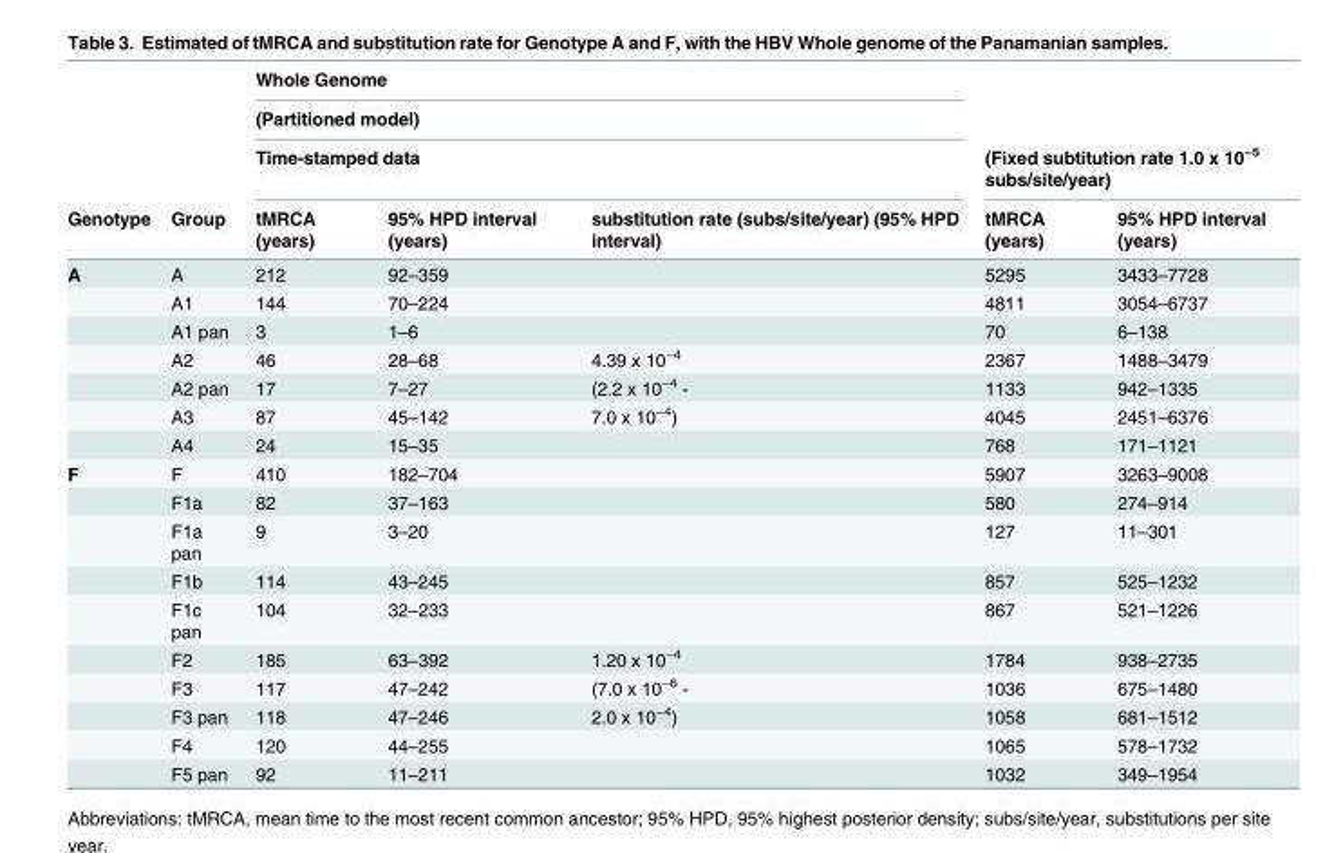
<table><thead><tr><td rowspan="4">Genotype</td><td rowspan="4">Group</td><td rowspan="3" colspan="3">Whole Genome (Partitioned model) Time-stamped data</td><td rowspan="2"></td><td rowspan="2"></td></tr><tr></tr><tr><td colspan="2">(Fixed subtitution rate 1.0 x 10<sup>−5</sup> subs/site/year)</td></tr><tr><td>tMRCA (years)</td><td>95% HPD interval (years)</td><td>substitution rate (subs/site/year) (95% HPD interval)</td><td>tMRCA (years)</td><td>95% HPD interval (years)</td></tr></thead><tbody><tr><td rowspan="7">A</td><td>A</td><td>212</td><td>92–359</td><td></td><td>5295</td><td>3433–7728</td></tr><tr><td>A1</td><td>144</td><td>70–224</td><td></td><td>4811</td><td>3054–6737</td></tr><tr><td>A1 pan</td><td>3</td><td>1–6</td><td></td><td>70</td><td>6–138</td></tr><tr><td>A2</td><td>46</td><td>28–68</td><td>4.39 x 10<sup>−4</sup></td><td>2367</td><td>1488–3479</td></tr><tr><td>A2 pan</td><td>17</td><td>7–27</td><td>(2.2 x 10<sup>−4</sup> -</td><td>1133</td><td>942–1335</td></tr><tr><td>A3</td><td>87</td><td>45–142</td><td>7.0 x 10<sup>−4</sup>)</td><td>4045</td><td>2451–6376</td></tr><tr><td>A4</td><td>24</td><td>15–35</td><td></td><td>768</td><td>171–1121</td></tr><tr><td rowspan="10">F</td><td>F</td><td>410</td><td>182–704</td><td></td><td>5907</td><td>3263–9008</td></tr><tr><td>F1a</td><td>82</td><td>37–163</td><td></td><td>580</td><td>274–914</td></tr><tr><td>F1a pan</td><td>9</td><td>3–20</td><td></td><td>127</td><td>11–301</td></tr><tr><td>F1b</td><td>114</td><td>43–245</td><td></td><td>857</td><td>525–1232</td></tr><tr><td>F1c pan</td><td>104</td><td>32–233</td><td></td><td>867</td><td>521–1226</td></tr><tr><td>F2</td><td>185</td><td>63–392</td><td>1.20 x 10<sup>−4</sup></td><td>1784</td><td>938–2735</td></tr><tr><td>F3</td><td>117</td><td>47–242</td><td>(7.0 x 10<sup>−6</sup> -</td><td>1036</td><td>675–1480</td></tr><tr><td>F3 pan</td><td>118</td><td>47–246</td><td>2.0 x 10<sup>−4</sup>)</td><td>1058</td><td>681–1512</td></tr><tr><td>F4</td><td>120</td><td>44–255</td><td></td><td>1065</td><td>578–1732</td></tr><tr><td>F5 pan</td><td>92</td><td>11–211</td><td></td><td>1032</td><td>349–1954</td></tr></tbody></table>